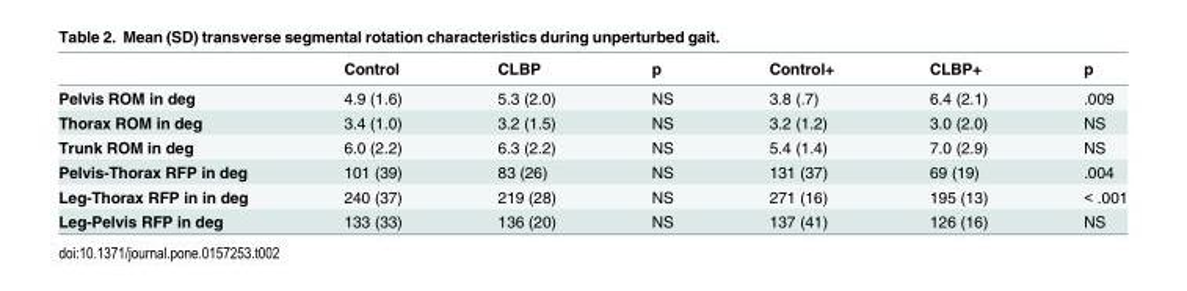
<table><thead><tr><td></td><td>Control</td><td>CLBP</td><td>p</td><td>Control+</td><td>CLBP+</td><td>p</td></tr></thead><tbody><tr><td>Pelvis ROM in deg</td><td>4.9 (1.6)</td><td>5.3 (2.0)</td><td>NS</td><td>3.8 (.7)</td><td>6.4 (2.1)</td><td>.009</td></tr><tr><td>Thorax ROM in deg</td><td>3.4 (1.0)</td><td>3.2 (1.5)</td><td>NS</td><td>3.2 (1.2)</td><td>3.0 (2.0)</td><td>NS</td></tr><tr><td>Trunk ROM in deg</td><td>6.0 (2.2)</td><td>6.3 (2.2)</td><td>NS</td><td>5.4 (1.4)</td><td>7.0 (2.9)</td><td>NS</td></tr><tr><td>Pelvis-Thorax RFP in deg</td><td>101 (39)</td><td>83 (26)</td><td>NS</td><td>131 (37)</td><td>69 (19)</td><td>.004</td></tr><tr><td>Leg-Thorax RFP in in deg</td><td>240 (37)</td><td>219 (28)</td><td>NS</td><td>271 (16)</td><td>195 (13)</td><td>&lt; .001</td></tr><tr><td>Leg-Pelvis RFP in deg</td><td>133 (33)</td><td>136 (20)</td><td>NS</td><td>137 (41)</td><td>126 (16)</td><td>NS</td></tr></tbody></table>